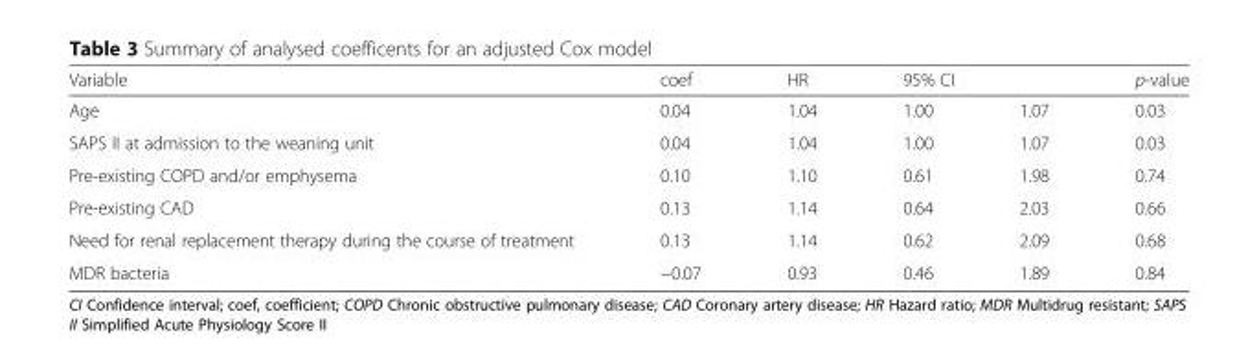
<table><thead><tr><td rowspan="2">Variable Age</td><td rowspan="2">coef 0.04</td><td rowspan="2">HR 1.04</td><td colspan="2">95% CI</td><td rowspan="2">p-value 0.03</td></tr><tr><td>1.00</td><td>1.07</td></tr></thead><tbody><tr><td>SAPS II at admission to the weaning unit</td><td>0.04</td><td>1.04</td><td>1.00</td><td>1.07</td><td>0.03</td></tr><tr><td>Pre-existing COPD and/or emphysema</td><td>0.10</td><td>1.10</td><td>0.61</td><td>1.98</td><td>0.74</td></tr><tr><td>Pre-existing CAD</td><td>0.13</td><td>1.14</td><td>0.64</td><td>2.03</td><td>0.66</td></tr><tr><td>Need for renal replacement therapy during the course of treatment</td><td>0.13</td><td>1.14</td><td>0.62</td><td>2.09</td><td>0.68</td></tr><tr><td>MDR bacteria</td><td>−0.07</td><td>0.93</td><td>0.46</td><td>1.89</td><td>0.84</td></tr></tbody></table>